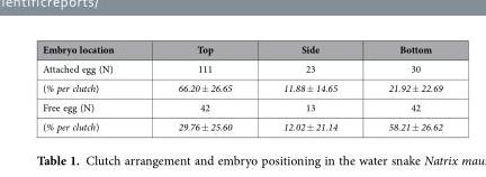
<table><thead><tr><td>Embryo location</td><td>Top</td><td>Side</td><td>Bottom</td></tr></thead><tbody><tr><td>Attached egg (N)</td><td>111</td><td>23</td><td>30</td></tr><tr><td>(% per clutch)</td><td>66.20 ± 26.65</td><td>11.88 ± 14.65</td><td>21.92 ± 22.69</td></tr><tr><td>Free egg (N)</td><td>42</td><td>13</td><td>42</td></tr><tr><td>(% per clutch)</td><td>29.76 ± 25.60</td><td>12.02 ± 21.14</td><td>58.21 ± 26.62</td></tr></tbody></table>